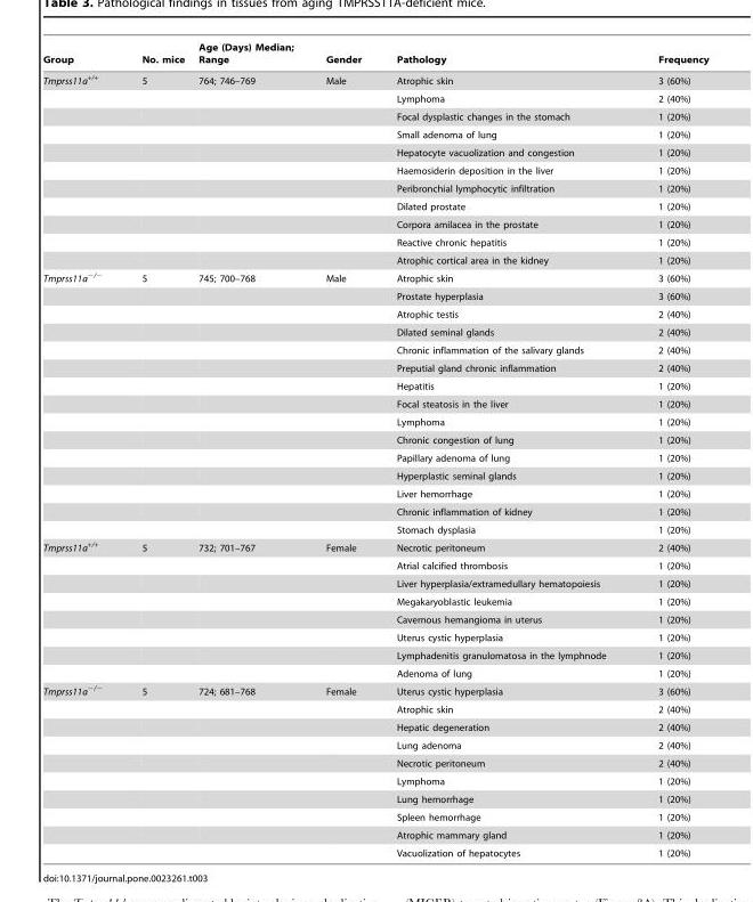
<table><thead><tr><td>Group</td><td>No. mice</td><td>Age (Days) Median; Range</td><td>Gender</td><td>Pathology</td><td>Frequency</td></tr></thead><tbody><tr><td rowspan="11">Tmprss11a<sup>+/+</sup></td><td>5</td><td>764; 746–769</td><td>Male</td><td>Atrophic skin</td><td>3 (60%)</td></tr><tr><td></td><td></td><td></td><td>Lymphoma</td><td>2 (40%)</td></tr><tr><td></td><td></td><td></td><td>Focal dysplastic changes in the stomach</td><td>1 (20%)</td></tr><tr><td></td><td></td><td></td><td>Small adenoma of lung</td><td>1 (20%)</td></tr><tr><td></td><td></td><td></td><td>Hepatocyte vacuolization and congestion</td><td>1 (20%)</td></tr><tr><td></td><td></td><td></td><td>Haemosiderin deposition in the liver</td><td>1 (20%)</td></tr><tr><td></td><td></td><td></td><td>Peribronchial lymphocytic infiltration</td><td>1 (20%)</td></tr><tr><td></td><td></td><td></td><td>Dilated prostate</td><td>1 (20%)</td></tr><tr><td></td><td></td><td></td><td>Corpora amilacea in the prostate</td><td>1 (20%)</td></tr><tr><td></td><td></td><td></td><td>Reactive chronic hepatitis</td><td>1 (20%)</td></tr><tr><td></td><td></td><td></td><td>Atrophic cortical area in the kidney</td><td>1 (20%)</td></tr><tr><td rowspan="15">Tmprss11a<sup>−/−</sup></td><td>5</td><td>745; 700–768</td><td>Male</td><td>Atrophic skin</td><td>3 (60%)</td></tr><tr><td></td><td></td><td></td><td>Prostate hyperplasia</td><td>3 (60%)</td></tr><tr><td></td><td></td><td></td><td>Atrophic testis</td><td>2 (40%)</td></tr><tr><td></td><td></td><td></td><td>Dilated seminal glands</td><td>2 (40%)</td></tr><tr><td></td><td></td><td></td><td>Chronic inflammation of the salivary glands</td><td>2 (40%)</td></tr><tr><td></td><td></td><td></td><td>Preputial gland chronic inflammation</td><td>2 (40%)</td></tr><tr><td></td><td></td><td></td><td>Hepatitis</td><td>1 (20%)</td></tr><tr><td></td><td></td><td></td><td>Focal steatosis in the liver</td><td>1 (20%)</td></tr><tr><td></td><td></td><td></td><td>Lymphoma</td><td>1 (20%)</td></tr><tr><td></td><td></td><td></td><td>Chronic congestion of lung</td><td>1 (20%)</td></tr><tr><td></td><td></td><td></td><td>Papillary adenoma of lung</td><td>1 (20%)</td></tr><tr><td></td><td></td><td></td><td>Hyperplastic seminal glands</td><td>1 (20%)</td></tr><tr><td></td><td></td><td></td><td>Liver hemorrhage</td><td>1 (20%)</td></tr><tr><td></td><td></td><td></td><td>Chronic inflammation of kidney</td><td>1 (20%)</td></tr><tr><td></td><td></td><td></td><td>Stomach dysplasia</td><td>1 (20%)</td></tr><tr><td rowspan="8">Tmprss11a<sup>+/+</sup></td><td>5</td><td>732; 701–767</td><td>Female</td><td>Necrotic peritoneum</td><td>2 (40%)</td></tr><tr><td></td><td></td><td></td><td>Atrial calcified thrombosis</td><td>1 (20%)</td></tr><tr><td></td><td></td><td></td><td>Liver hyperplasia/extramedullary hematopoiesis</td><td>1 (20%)</td></tr><tr><td></td><td></td><td></td><td>Megakaryoblastic leukemia</td><td>1 (20%)</td></tr><tr><td></td><td></td><td></td><td>Cavernous hemangioma in uterus</td><td>1 (20%)</td></tr><tr><td></td><td></td><td></td><td>Uterus cystic hyperplasia</td><td>1 (20%)</td></tr><tr><td></td><td></td><td></td><td>Lymphadenitis granulomatosa in the lymphnode</td><td>1 (20%)</td></tr><tr><td></td><td></td><td></td><td>Adenoma of lung</td><td>1 (20%)</td></tr><tr><td rowspan="10">Tmprss11a<sup>−/−</sup></td><td>5</td><td>724; 681–768</td><td>Female</td><td>Uterus cystic hyperplasia</td><td>3 (60%)</td></tr><tr><td></td><td></td><td></td><td>Atrophic skin</td><td>2 (40%)</td></tr><tr><td></td><td></td><td></td><td>Hepatic degeneration</td><td>2 (40%)</td></tr><tr><td></td><td></td><td></td><td>Lung adenoma</td><td>2 (40%)</td></tr><tr><td></td><td></td><td></td><td>Necrotic peritoneum</td><td>2 (40%)</td></tr><tr><td></td><td></td><td></td><td>Lymphoma</td><td>1 (20%)</td></tr><tr><td></td><td></td><td></td><td>Lung hemorrhage</td><td>1 (20%)</td></tr><tr><td></td><td></td><td></td><td>Spleen hemorrhage</td><td>1 (20%)</td></tr><tr><td></td><td></td><td></td><td>Atrophic mammary gland</td><td>1 (20%)</td></tr><tr><td></td><td></td><td></td><td>Vacuolization of hepatocytes</td><td>1 (20%)</td></tr></tbody></table>